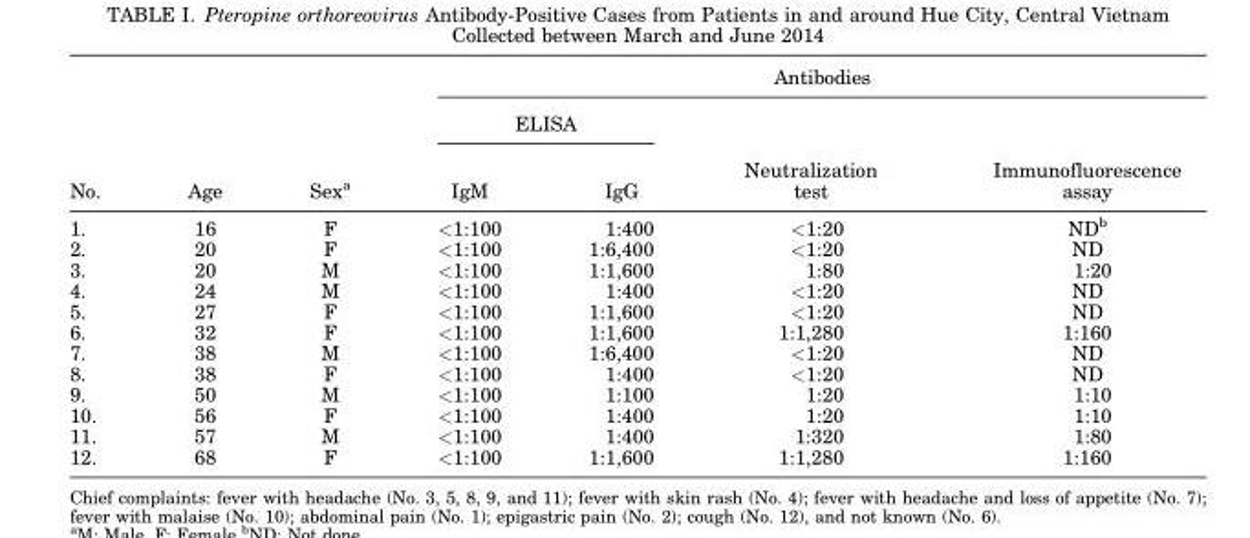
<table><thead><tr><td rowspan="3">No.</td><td rowspan="3">Age</td><td rowspan="3">Sex<sup>a</sup></td><td colspan="4">Antibodies</td></tr><tr><td colspan="2">ELISA</td><td rowspan="2">Neutralization test</td><td rowspan="2">Immunofluorescence assay</td></tr><tr><td>IgM</td><td>IgG</td></tr></thead><tbody><tr><td>1.</td><td>16</td><td>F</td><td>&lt;1:100</td><td>1:400</td><td>&lt;1:20</td><td>ND<sup>b</sup></td></tr><tr><td>2.</td><td>20</td><td>F</td><td>&lt;1:100</td><td>1:6,400</td><td>&lt;1:20</td><td>ND</td></tr><tr><td>3.</td><td>20</td><td>M</td><td>&lt;1:100</td><td>1:1,600</td><td>1:80</td><td>1:20</td></tr><tr><td>4.</td><td>24</td><td>M</td><td>&lt;1:100</td><td>1:400</td><td>&lt;1:20</td><td>ND</td></tr><tr><td>5.</td><td>27</td><td>F</td><td>&lt;1:100</td><td>1:1,600</td><td>&lt;1:20</td><td>ND</td></tr><tr><td>6.</td><td>32</td><td>F</td><td>&lt;1:100</td><td>1:1,600</td><td>1:1,280</td><td>1:160</td></tr><tr><td>7.</td><td>38</td><td>M</td><td>&lt;1:100</td><td>1:6,400</td><td>&lt;1:20</td><td>ND</td></tr><tr><td>8.</td><td>38</td><td>F</td><td>&lt;1:100</td><td>1:400</td><td>&lt;1:20</td><td>ND</td></tr><tr><td>9.</td><td>50</td><td>M</td><td>&lt;1:100</td><td>1:100</td><td>1:20</td><td>1:10</td></tr><tr><td>10.</td><td>56</td><td>F</td><td>&lt;1:100</td><td>1:400</td><td>1:20</td><td>1:10</td></tr><tr><td>11.</td><td>57</td><td>M</td><td>&lt;1:100</td><td>1:400</td><td>1:320</td><td>1:80</td></tr><tr><td>12.</td><td>68</td><td>F</td><td>&lt;1:100</td><td>1:1,600</td><td>1:1,280</td><td>1:160</td></tr></tbody></table>